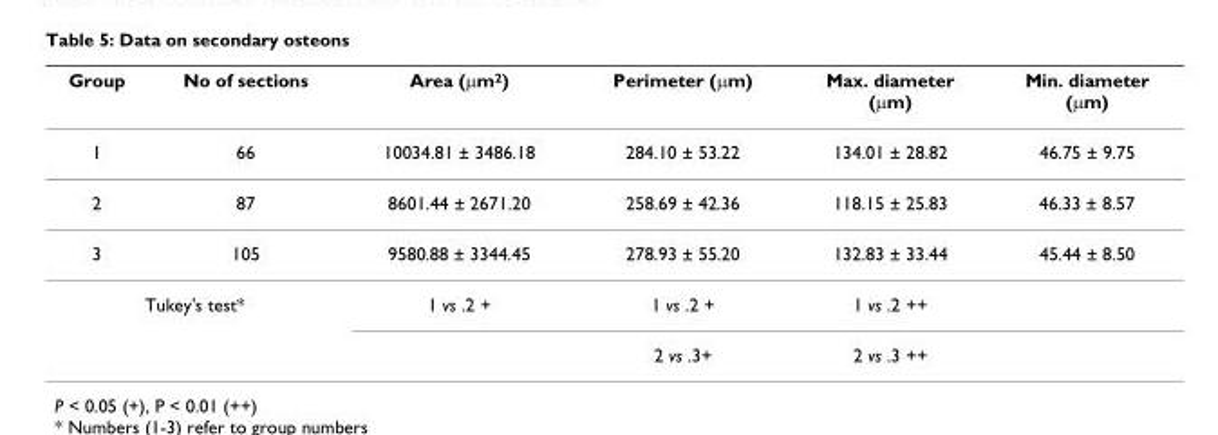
<table><thead><tr><td>Group</td><td>No of sections</td><td>Area (μm<sup>2</sup>)</td><td>Perimeter (μm)</td><td>Max. diameter (μm)</td><td>Min. diameter (μm)</td></tr></thead><tbody><tr><td>1</td><td>66</td><td>10034.81 ± 3486.18</td><td>284.10 ± 53.22</td><td>134.01 ± 28.82</td><td>46.75 ± 9.75</td></tr><tr><td>2</td><td>87</td><td>8601.44 ± 2671.20</td><td>258.69 ± 42.36</td><td>118.15 ± 25.83</td><td>46.33 ± 8.57</td></tr><tr><td>3</td><td>105</td><td>9580.88 ± 3344.45</td><td>278.93 ± 55.20</td><td>132.83 ± 33.44</td><td>45.44 ± 8.50</td></tr><tr><td colspan="2">Tukey&#x27;s test*</td><td>1 vs .2 +</td><td>1 vs .2 +</td><td>1 vs .2 ++</td><td></td></tr><tr><td></td><td></td><td></td><td>2 vs .3+</td><td>2 vs .3 ++</td><td></td></tr></tbody></table>